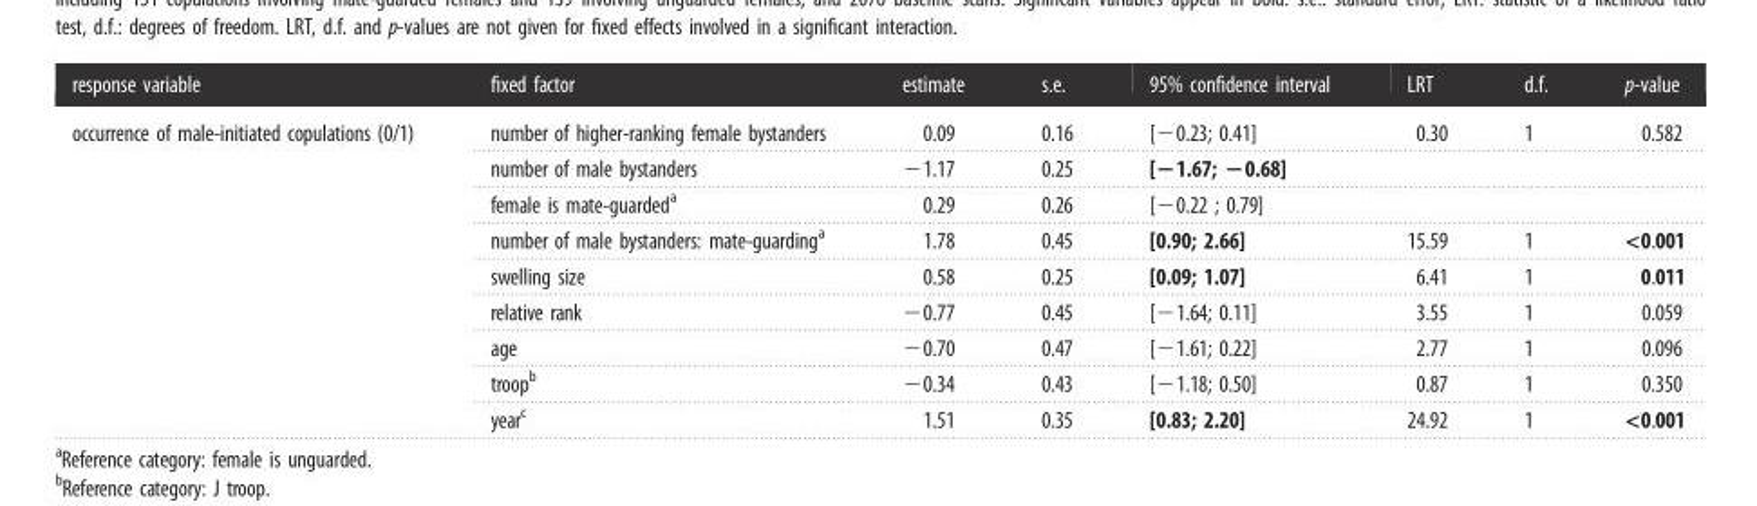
<table><thead><tr><td>response variable</td><td>fixed factor</td><td>estimate</td><td>s.e.</td><td>95% confidence interval</td><td>LRT</td><td>d.f.</td><td>p-value</td></tr></thead><tbody><tr><td rowspan="9">occurrence of male-initiated copulations (0/1)</td><td>number of higher-ranking female bystanders</td><td>0.09</td><td>0.16</td><td>[−0.23; 0.41]</td><td>0.30</td><td>1</td><td>0.582</td></tr><tr><td>number of male bystanders</td><td>−1.17</td><td>0.25</td><td>[−1.67; −0.68]</td><td></td><td></td><td></td></tr><tr><td>female is mate-guarded<sup>a</sup></td><td>0.29</td><td>0.26</td><td>[−0.22 ; 0.79]</td><td></td><td></td><td></td></tr><tr><td>number of male bystanders: mate-guarding<sup>a</sup></td><td>1.78</td><td>0.45</td><td>[0.90; 2.66]</td><td>15.59</td><td>1</td><td>&lt;0.001</td></tr><tr><td>swelling size</td><td>0.58</td><td>0.25</td><td>[0.09; 1.07]</td><td>6.41</td><td>1</td><td>0.011</td></tr><tr><td>relative rank</td><td>−0.77</td><td>0.45</td><td>[−1.64; 0.11]</td><td>3.55</td><td>1</td><td>0.059</td></tr><tr><td>age</td><td>−0.70</td><td>0.47</td><td>[−1.61; 0.22]</td><td>2.77</td><td>1</td><td>0.096</td></tr><tr><td>troop<sup>b</sup></td><td>−0.34</td><td>0.43</td><td>[−1.18; 0.50]</td><td>0.87</td><td>1</td><td>0.350</td></tr><tr><td>year<sup>c</sup></td><td>1.51</td><td>0.35</td><td>[0.83; 2.20]</td><td>24.92</td><td>1</td><td>&lt;0.001</td></tr></tbody></table>